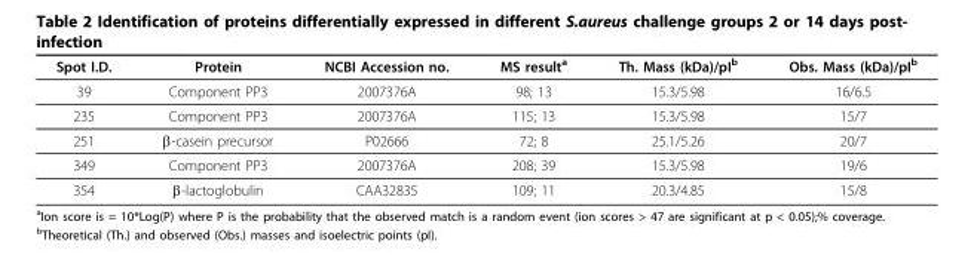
<table><thead><tr><td>Spot I.D.</td><td>Protein</td><td>NCBI Accession no.</td><td>MS result<sup>a</sup></td><td>Th. Mass (kDa)/pI<sup>b</sup></td><td>Obs. Mass (kDa)/pI<sup>b</sup></td></tr></thead><tbody><tr><td>39</td><td>Component PP3</td><td>2007376A</td><td>98; 13</td><td>15.3/5.98</td><td>16/6.5</td></tr><tr><td>235</td><td>Component PP3</td><td>2007376A</td><td>115; 13</td><td>15.3/5.98</td><td>15/7</td></tr><tr><td>251</td><td>β-casein precursor</td><td>P02666</td><td>72; 8</td><td>25.1/5.26</td><td>20/7</td></tr><tr><td>349</td><td>Component PP3</td><td>2007376A</td><td>208; 39</td><td>15.3/5.98</td><td>19/6</td></tr><tr><td>354</td><td>β-lactoglobulin</td><td>CAA32835</td><td>109; 11</td><td>20.3/4.85</td><td>15/8</td></tr></tbody></table>